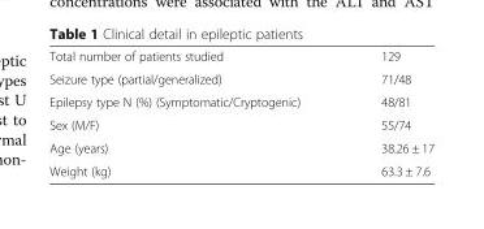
<table><tbody><tr><td>Total number of patients studied</td><td>129</td></tr><tr><td>Seizure type (partial/generalized)</td><td>71/48</td></tr><tr><td>Epilepsy type N (%) (Symptomatic/Cryptogenic)</td><td>48/81</td></tr><tr><td>Sex (M/F)</td><td>55/74</td></tr><tr><td>Age (years)</td><td>38.26 ± 17</td></tr><tr><td>Weight (kg)</td><td>63.3 ± 7.6</td></tr></tbody></table>